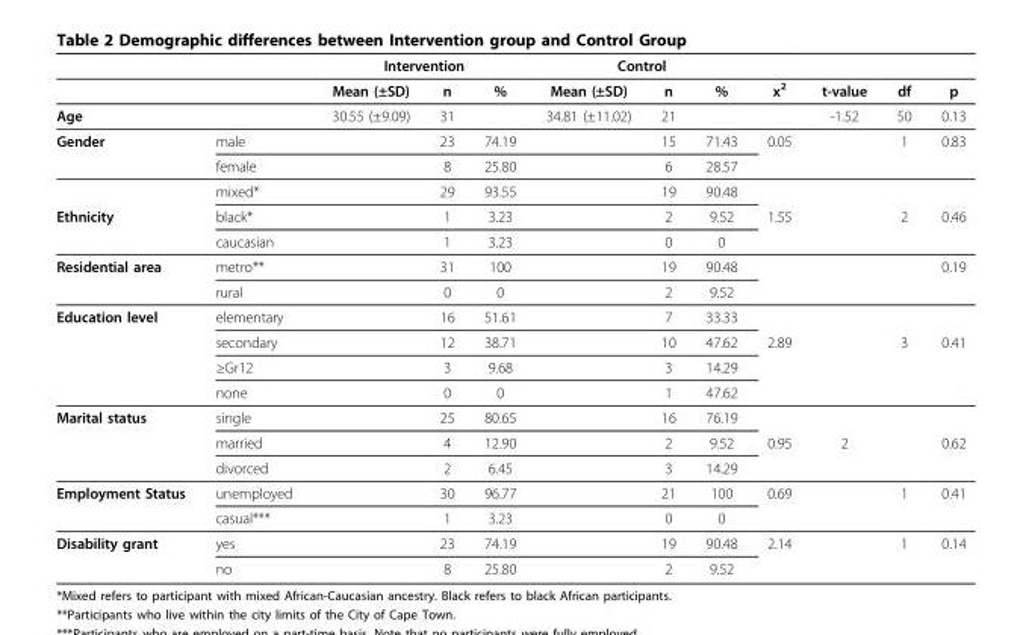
<table><thead><tr><td rowspan="2"></td><td rowspan="2"></td><td colspan="3">Intervention</td><td colspan="3">Control</td><td rowspan="2">x<sup>2</sup></td><td rowspan="2">t-value</td><td rowspan="2">df</td><td rowspan="2">p</td></tr><tr><td>Mean (±SD)</td><td>n</td><td>%</td><td>Mean (±SD)</td><td>n</td><td>%</td></tr></thead><tbody><tr><td colspan="2">Age</td><td>30.55 (±9.09)</td><td>31</td><td></td><td>34.81 (±11.02)</td><td>21</td><td></td><td></td><td>-1.52</td><td>50</td><td>0.13</td></tr><tr><td rowspan="3">Gender</td><td>male</td><td></td><td>23</td><td>74.19</td><td></td><td>15</td><td>71.43</td><td>0.05</td><td></td><td>1</td><td>0.83</td></tr><tr><td>female</td><td></td><td>8</td><td>25.80</td><td></td><td>6</td><td>28.57</td><td></td><td></td><td></td><td></td></tr><tr><td>mixed*</td><td></td><td>29</td><td>93.55</td><td></td><td>19</td><td>90.48</td><td></td><td></td><td></td><td></td></tr><tr><td rowspan="2">Ethnicity</td><td>black*</td><td></td><td>1</td><td>3.23</td><td></td><td>2</td><td>9.52</td><td>1.55</td><td></td><td>2</td><td>0.46</td></tr><tr><td>caucasian</td><td></td><td>1</td><td>3.23</td><td></td><td>0</td><td>0</td><td></td><td></td><td></td><td></td></tr><tr><td rowspan="2">Residential area</td><td>metro**</td><td></td><td>31</td><td>100</td><td></td><td>19</td><td>90.48</td><td></td><td></td><td></td><td>0.19</td></tr><tr><td>rural</td><td></td><td>0</td><td>0</td><td></td><td>2</td><td>9.52</td><td></td><td></td><td></td><td></td></tr><tr><td rowspan="4">Education level</td><td>elementary</td><td></td><td>16</td><td>51.61</td><td></td><td>7</td><td>33.33</td><td></td><td></td><td></td><td></td></tr><tr><td>secondary</td><td></td><td>12</td><td>38.71</td><td></td><td>10</td><td>47.62</td><td>2.89</td><td></td><td>3</td><td>0.41</td></tr><tr><td>≥Gr12</td><td></td><td>3</td><td>9.68</td><td></td><td>3</td><td>14.29</td><td></td><td></td><td></td><td></td></tr><tr><td>none</td><td></td><td>0</td><td>0</td><td></td><td>1</td><td>47.62</td><td></td><td></td><td></td><td></td></tr><tr><td rowspan="3">Marital status</td><td>single</td><td></td><td>25</td><td>80.65</td><td></td><td>16</td><td>76.19</td><td></td><td></td><td></td><td></td></tr><tr><td>married</td><td></td><td>4</td><td>12.90</td><td></td><td>2</td><td>9.52</td><td>0.95</td><td>2</td><td></td><td>0.62</td></tr><tr><td>divorced</td><td></td><td>2</td><td>6.45</td><td></td><td>3</td><td>14.29</td><td></td><td></td><td></td><td></td></tr><tr><td rowspan="2">Employment Status</td><td>unemployed</td><td></td><td>30</td><td>96.77</td><td></td><td>21</td><td>100</td><td>0.69</td><td></td><td>1</td><td>0.41</td></tr><tr><td>casual***</td><td></td><td>1</td><td>3.23</td><td></td><td>0</td><td>0</td><td></td><td></td><td></td><td></td></tr><tr><td rowspan="2">Disability grant</td><td>yes</td><td></td><td>23</td><td>74.19</td><td></td><td>19</td><td>90.48</td><td>2.14</td><td></td><td>1</td><td>0.14</td></tr><tr><td>no</td><td></td><td>8</td><td>25.80</td><td></td><td>2</td><td>9.52</td><td></td><td></td><td></td><td></td></tr></tbody></table>